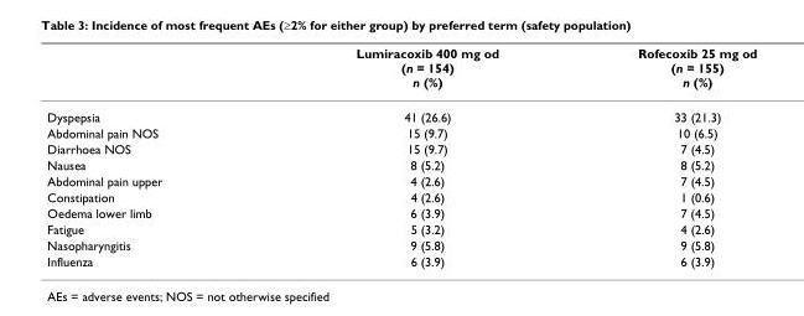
<table><thead><tr><td></td><td>Lumiracoxib 400 mg od (n = 154) n (%)</td><td>Rofecoxib 25 mg od (n = 155) n (%)</td></tr></thead><tbody><tr><td>Dyspepsia</td><td>41 (26.6)</td><td>33 (21.3)</td></tr><tr><td>Abdominal pain NOS</td><td>15 (9.7)</td><td>10 (6.5)</td></tr><tr><td>Diarrhoea NOS</td><td>15 (9.7)</td><td>7 (4.5)</td></tr><tr><td>Nausea</td><td>8 (5.2)</td><td>8 (5.2)</td></tr><tr><td>Abdominal pain upper</td><td>4 (2.6)</td><td>7 (4.5)</td></tr><tr><td>Constipation</td><td>4 (2.6)</td><td>1 (0.6)</td></tr><tr><td>Oedema lower limb</td><td>6 (3.9)</td><td>7 (4.5)</td></tr><tr><td>Fatigue</td><td>5 (3.2)</td><td>4 (2.6)</td></tr><tr><td>Nasopharyngitis</td><td>9 (5.8)</td><td>9 (5.8)</td></tr><tr><td>Influenza</td><td>6 (3.9)</td><td>6 (3.9)</td></tr></tbody></table>